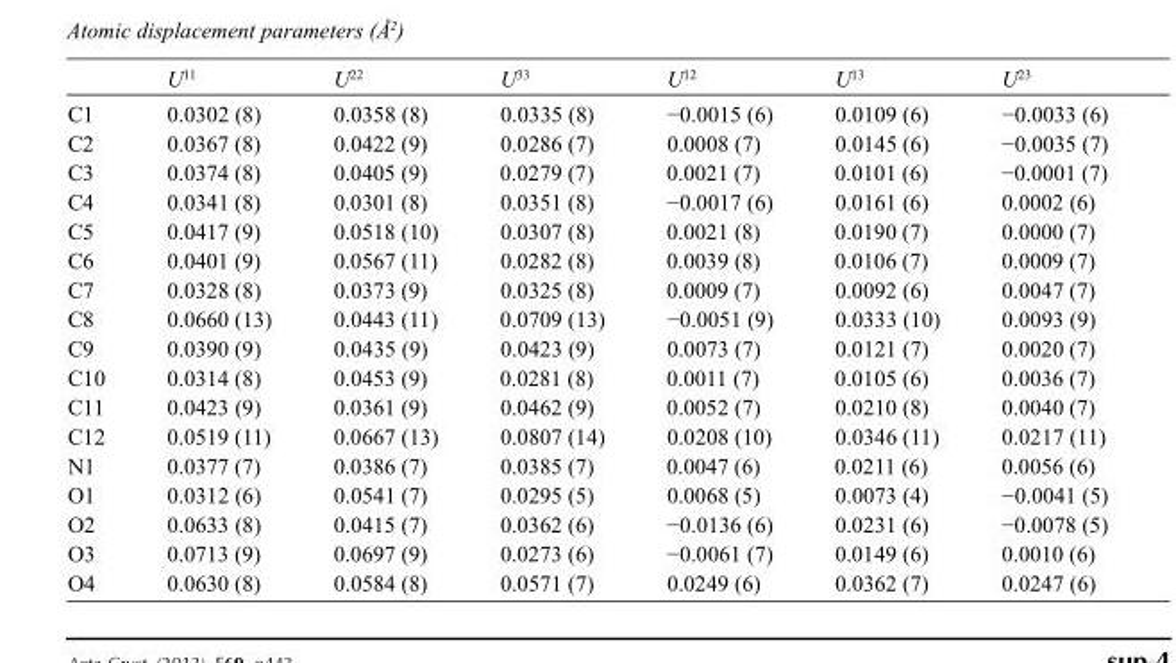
<table><thead><tr><td></td><td>U<sup>11</sup></td><td>U<sup>22</sup></td><td>U<sup>33</sup></td><td>U<sup>12</sup></td><td>U<sup>13</sup></td><td>U<sup>23</sup></td></tr></thead><tbody><tr><td>C1</td><td>0.0302 (8)</td><td>0.0358 (8)</td><td>0.0335 (8)</td><td>−0.0015 (6)</td><td>0.0109 (6)</td><td>−0.0033 (6)</td></tr><tr><td>C2</td><td>0.0367 (8)</td><td>0.0422 (9)</td><td>0.0286 (7)</td><td>0.0008 (7)</td><td>0.0145 (6)</td><td>−0.0035 (7)</td></tr><tr><td>C3</td><td>0.0374 (8)</td><td>0.0405 (9)</td><td>0.0279 (7)</td><td>0.0021 (7)</td><td>0.0101 (6)</td><td>−0.0001 (7)</td></tr><tr><td>C4</td><td>0.0341 (8)</td><td>0.0301 (8)</td><td>0.0351 (8)</td><td>−0.0017 (6)</td><td>0.0161 (6)</td><td>0.0002 (6)</td></tr><tr><td>C5</td><td>0.0417 (9)</td><td>0.0518 (10)</td><td>0.0307 (8)</td><td>0.0021 (8)</td><td>0.0190 (7)</td><td>0.0000 (7)</td></tr><tr><td>C6</td><td>0.0401 (9)</td><td>0.0567 (11)</td><td>0.0282 (8)</td><td>0.0039 (8)</td><td>0.0106 (7)</td><td>0.0009 (7)</td></tr><tr><td>C7</td><td>0.0328 (8)</td><td>0.0373 (9)</td><td>0.0325 (8)</td><td>0.0009 (7)</td><td>0.0092 (6)</td><td>0.0047 (7)</td></tr><tr><td>C8</td><td>0.0660 (13)</td><td>0.0443 (11)</td><td>0.0709 (13)</td><td>−0.0051 (9)</td><td>0.0333 (10)</td><td>0.0093 (9)</td></tr><tr><td>C9</td><td>0.0390 (9)</td><td>0.0435 (9)</td><td>0.0423 (9)</td><td>0.0073 (7)</td><td>0.0121 (7)</td><td>0.0020 (7)</td></tr><tr><td>C10</td><td>0.0314 (8)</td><td>0.0453 (9)</td><td>0.0281 (8)</td><td>0.0011 (7)</td><td>0.0105 (6)</td><td>0.0036 (7)</td></tr><tr><td>C11</td><td>0.0423 (9)</td><td>0.0361 (9)</td><td>0.0462 (9)</td><td>0.0052 (7)</td><td>0.0210 (8)</td><td>0.0040 (7)</td></tr><tr><td>C12</td><td>0.0519 (11)</td><td>0.0667 (13)</td><td>0.0807 (14)</td><td>0.0208 (10)</td><td>0.0346 (11)</td><td>0.0217 (11)</td></tr><tr><td>N1</td><td>0.0377 (7)</td><td>0.0386 (7)</td><td>0.0385 (7)</td><td>0.0047 (6)</td><td>0.0211 (6)</td><td>0.0056 (6)</td></tr><tr><td>O1</td><td>0.0312 (6)</td><td>0.0541 (7)</td><td>0.0295 (5)</td><td>0.0068 (5)</td><td>0.0073 (4)</td><td>−0.0041 (5)</td></tr><tr><td>O2</td><td>0.0633 (8)</td><td>0.0415 (7)</td><td>0.0362 (6)</td><td>−0.0136 (6)</td><td>0.0231 (6)</td><td>−0.0078 (5)</td></tr><tr><td>O3</td><td>0.0713 (9)</td><td>0.0697 (9)</td><td>0.0273 (6)</td><td>−0.0061 (7)</td><td>0.0149 (6)</td><td>0.0010 (6)</td></tr><tr><td>O4</td><td>0.0630 (8)</td><td>0.0584 (8)</td><td>0.0571 (7)</td><td>0.0249 (6)</td><td>0.0362 (7)</td><td>0.0247 (6)</td></tr></tbody></table>